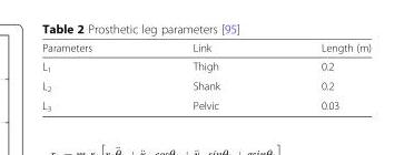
<table><thead><tr><td>Parameters</td><td>Link</td><td>Length (m)</td></tr></thead><tbody><tr><td>L<sub>1</sub></td><td>Thigh</td><td>0.2</td></tr><tr><td>L<sub>2</sub></td><td>Shank</td><td>0.2</td></tr><tr><td>L<sub>3</sub></td><td>Pelvic</td><td>0.03</td></tr></tbody></table>